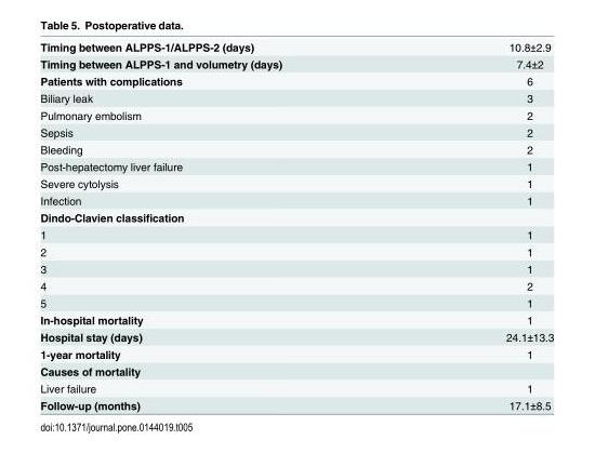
<table><tbody><tr><td>Timing between ALPPS-1/ALPPS-2 (days)</td><td>10.8±2.9</td></tr><tr><td>Timing between ALPPS-1 and volumetry (days)</td><td>7.4±2</td></tr><tr><td>Patients with complications</td><td>6</td></tr><tr><td>Biliary leak</td><td>3</td></tr><tr><td>Pulmonary embolism</td><td>2</td></tr><tr><td>Sepsis</td><td>2</td></tr><tr><td>Bleeding</td><td>2</td></tr><tr><td>Post-hepatectomy liver failure</td><td>1</td></tr><tr><td>Severe cytolysis</td><td>1</td></tr><tr><td>Infection</td><td>1</td></tr><tr><td colspan="2">Dindo-Clavien classification</td></tr><tr><td>1</td><td>1</td></tr><tr><td>2</td><td>1</td></tr><tr><td>3</td><td>1</td></tr><tr><td>4</td><td>2</td></tr><tr><td>5</td><td>1</td></tr><tr><td>In-hospital mortality</td><td>1</td></tr><tr><td>Hospital stay (days)</td><td>24.1±13.3</td></tr><tr><td>1-year mortality</td><td>1</td></tr><tr><td colspan="2">Causes of mortality</td></tr><tr><td>Liver failure</td><td>1</td></tr><tr><td>Follow-up (months)</td><td>17.1±8.5</td></tr></tbody></table>